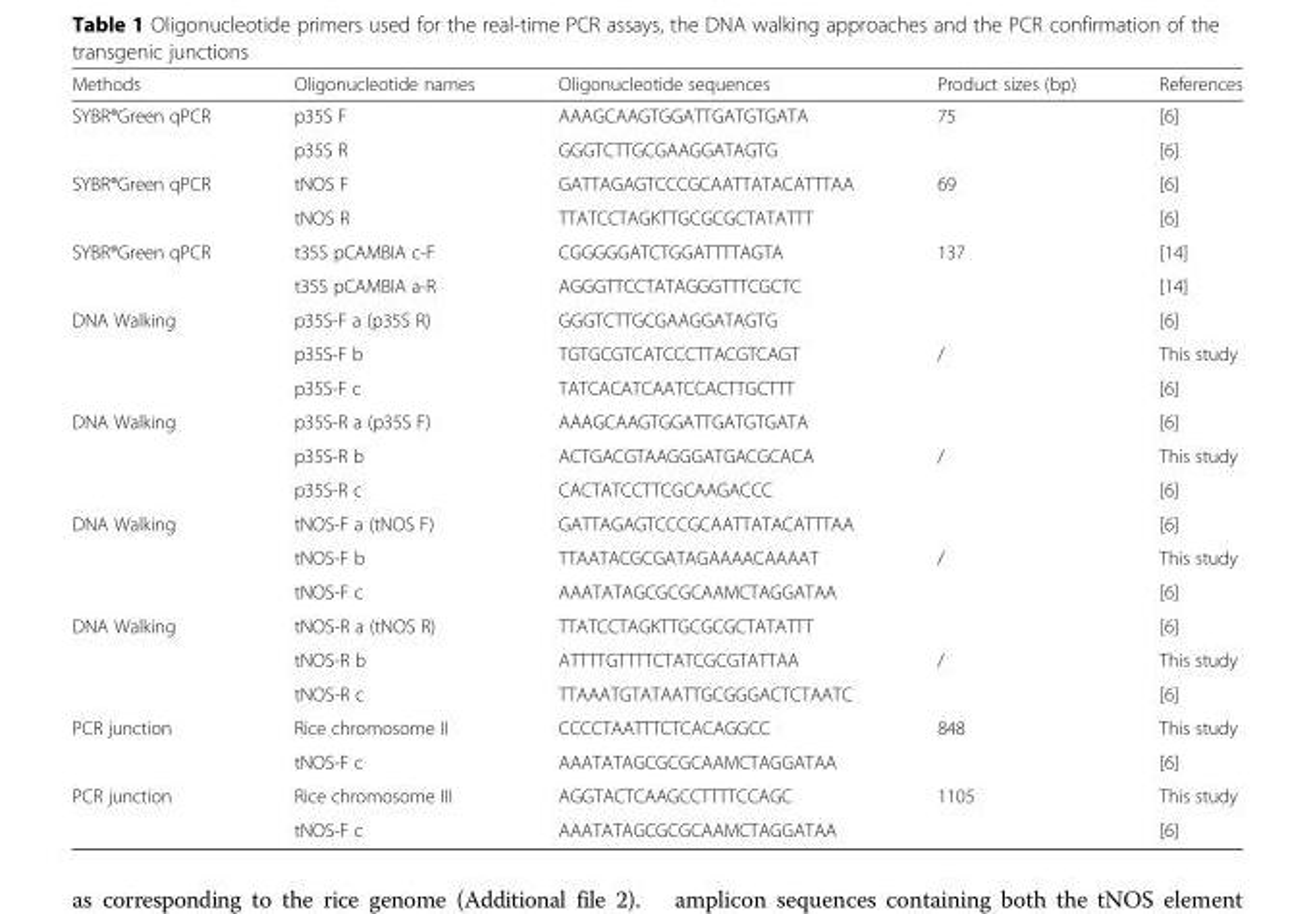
<table><thead><tr><td>Methods</td><td>Oligonucleotide names</td><td>Oligonucleotide sequences</td><td>Product sizes (bp)</td><td>References</td></tr></thead><tbody><tr><td rowspan="2">SYBR®Green qPCR</td><td>p35S F</td><td>AAAGCAAGTGGATTGATGTGATA</td><td rowspan="2">75</td><td>[6]</td></tr><tr><td>p35S R</td><td>GGGTCTTGCGAAGGATAGTG</td><td>[6]</td></tr><tr><td rowspan="2">SYBR®Green qPCR</td><td>tNOS F</td><td>GATTAGAGTCCCGCAATTATACATTTAA</td><td rowspan="2">69</td><td>[6]</td></tr><tr><td>tNOS R</td><td>TTATCCTAGKTTGCGCGCTATATTT</td><td>[6]</td></tr><tr><td rowspan="2">SYBR®Green qPCR</td><td>t35S pCAMBIA c-F</td><td>CGGGGGATCTGGATTTTAGTA</td><td rowspan="2">137</td><td>[14]</td></tr><tr><td>t35S pCAMBIA a-R</td><td>AGGGTTCCTATAGGGTTTCGCTC</td><td>[14]</td></tr><tr><td rowspan="3">DNA Walking</td><td>p35S-F a (p35S R)</td><td>GGGTCTTGCGAAGGATAGTG</td><td></td><td>[6]</td></tr><tr><td>p35S-F b</td><td>TGTGCGTCATCCCTTACGTCAGT</td><td>/</td><td>This study</td></tr><tr><td>p35S-F c</td><td>TATCACATCAATCCACTTGCTTT</td><td></td><td>[6]</td></tr><tr><td rowspan="3">DNA Walking</td><td>p35S-R a (p35S F)</td><td>AAAGCAAGTGGATTGATGTGATA</td><td></td><td>[6]</td></tr><tr><td>p35S-R b</td><td>ACTGACGTAAGGGATGACGCACA</td><td>/</td><td>This study</td></tr><tr><td>p35S-R c</td><td>CACTATCCTTCGCAAGACCC</td><td></td><td>[6]</td></tr><tr><td rowspan="3">DNA Walking</td><td>tNOS-F a (tNOS F)</td><td>GATTAGAGTCCCGCAATTATACATTTAA</td><td></td><td>[6]</td></tr><tr><td>tNOS-F b</td><td>TTAATACGCGATAGAAAACAAAAT</td><td>/</td><td>This study</td></tr><tr><td>tNOS-F c</td><td>AAATATAGCGCGCAAMCTAGGATAA</td><td></td><td>[6]</td></tr><tr><td rowspan="3">DNA Walking</td><td>tNOS-R a (tNOS R)</td><td>TTATCCTAGKTTGCGCGCTATATTT</td><td></td><td>[6]</td></tr><tr><td>tNOS-R b</td><td>ATTTTGTTTTCTATCGCGTATTAA</td><td>/</td><td>This study</td></tr><tr><td>tNOS-R c</td><td>TTAAATGTATAATTGCGGGACTCTAATC</td><td></td><td>[6]</td></tr><tr><td rowspan="2">PCR junction</td><td>Rice chromosome II</td><td>CCCCTAATTTCTCACAGGCC</td><td rowspan="2">848</td><td>This study</td></tr><tr><td>tNOS-F c</td><td>AAATATAGCGCGCAAMCTAGGATAA</td><td>[6]</td></tr><tr><td rowspan="2">PCR junction</td><td>Rice chromosome III</td><td>AGGTACTCAAGCCTTTTCCAGC</td><td rowspan="2">1105</td><td>This study</td></tr><tr><td>tNOS-F c</td><td>AAATATAGCGCGCAAMCTAGGATAA</td><td>[6]</td></tr></tbody></table>